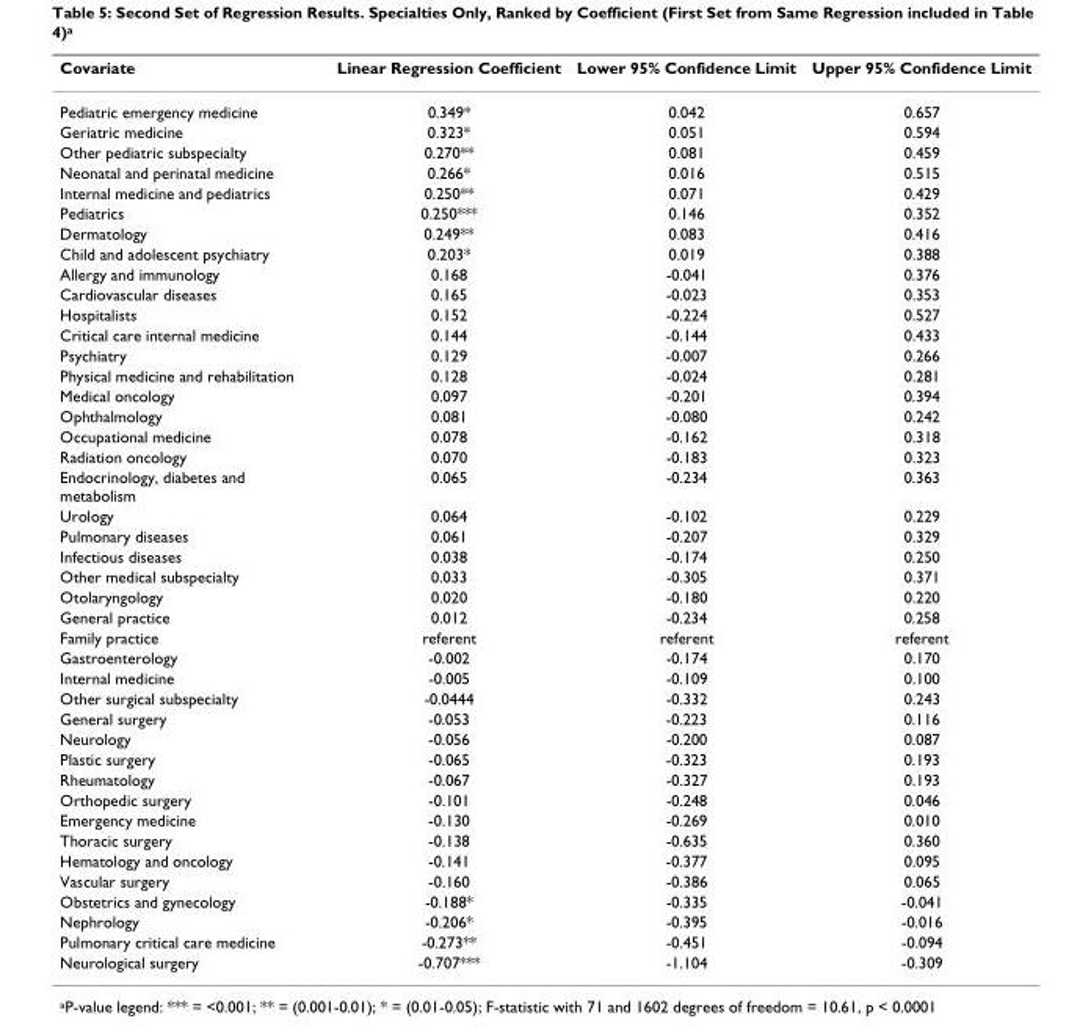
<table><thead><tr><td>Covariate</td><td>Linear Regression Coefficient</td><td>Lower 95% Confidence Limit</td><td>Upper 95% Confidence Limit</td></tr></thead><tbody><tr><td>Pediatric emergency medicine</td><td>0.349*</td><td>0.042</td><td>0.657</td></tr><tr><td>Geriatric medicine</td><td>0.323*</td><td>0.051</td><td>0.594</td></tr><tr><td>Other pediatric subspecialty</td><td>0.270**</td><td>0.081</td><td>0.459</td></tr><tr><td>Neonatal and perinatal medicine</td><td>0.266*</td><td>0.016</td><td>0.515</td></tr><tr><td>Internal medicine and pediatrics</td><td>0.250**</td><td>0.071</td><td>0.429</td></tr><tr><td>Pediatrics</td><td>0.250***</td><td>0.146</td><td>0.352</td></tr><tr><td>Dermatology</td><td>0.249**</td><td>0.083</td><td>0.416</td></tr><tr><td>Child and adolescent psychiatry</td><td>0.203*</td><td>0.019</td><td>0.388</td></tr><tr><td>Allergy and immunology</td><td>0.168</td><td>-0.041</td><td>0.376</td></tr><tr><td>Cardiovascular diseases</td><td>0.165</td><td>-0.023</td><td>0.353</td></tr><tr><td>Hospitalists</td><td>0.152</td><td>-0.224</td><td>0.527</td></tr><tr><td>Critical care internal medicine</td><td>0.144</td><td>-0.144</td><td>0.433</td></tr><tr><td>Psychiatry</td><td>0.129</td><td>-0.007</td><td>0.266</td></tr><tr><td>Physical medicine and rehabilitation</td><td>0.128</td><td>-0.024</td><td>0.281</td></tr><tr><td>Medical oncology</td><td>0.097</td><td>-0.201</td><td>0.394</td></tr><tr><td>Ophthalmology</td><td>0.081</td><td>-0.080</td><td>0.242</td></tr><tr><td>Occupational medicine</td><td>0.078</td><td>-0.162</td><td>0.318</td></tr><tr><td>Radiation oncology</td><td>0.070</td><td>-0.183</td><td>0.323</td></tr><tr><td>Endocrinology, diabetes and metabolism</td><td>0.065</td><td>-0.234</td><td>0.363</td></tr><tr><td>Urology</td><td>0.064</td><td>-0.102</td><td>0.229</td></tr><tr><td>Pulmonary diseases</td><td>0.061</td><td>-0.207</td><td>0.329</td></tr><tr><td>Infectious diseases</td><td>0.038</td><td>-0.174</td><td>0.250</td></tr><tr><td>Other medical subspecialty</td><td>0.033</td><td>-0.305</td><td>0.371</td></tr><tr><td>Otolaryngology</td><td>0.020</td><td>-0.180</td><td>0.220</td></tr><tr><td>General practice</td><td>0.012</td><td>-0.234</td><td>0.258</td></tr><tr><td>Family practice</td><td>referent</td><td>referent</td><td>referent</td></tr><tr><td>Gastroenterology</td><td>-0.002</td><td>-0.174</td><td>0.170</td></tr><tr><td>Internal medicine</td><td>-0.005</td><td>-0.109</td><td>0.100</td></tr><tr><td>Other surgical subspecialty</td><td>-0.0444</td><td>-0.332</td><td>0.243</td></tr><tr><td>General surgery</td><td>-0.053</td><td>-0.223</td><td>0.116</td></tr><tr><td>Neurology</td><td>-0.056</td><td>-0.200</td><td>0.087</td></tr><tr><td>Plastic surgery</td><td>-0.065</td><td>-0.323</td><td>0.193</td></tr><tr><td>Rheumatology</td><td>-0.067</td><td>-0.327</td><td>0.193</td></tr><tr><td>Orthopedic surgery</td><td>-0.101</td><td>-0.248</td><td>0.046</td></tr><tr><td>Emergency medicine</td><td>-0.130</td><td>-0.269</td><td>0.010</td></tr><tr><td>Thoracic surgery</td><td>-0.138</td><td>-0.635</td><td>0.360</td></tr><tr><td>Hematology and oncology</td><td>-0.141</td><td>-0.377</td><td>0.095</td></tr><tr><td>Vascular surgery</td><td>-0.160</td><td>-0.386</td><td>0.065</td></tr><tr><td>Obstetrics and gynecology</td><td>-0.188*</td><td>-0.335</td><td>-0.041</td></tr><tr><td>Nephrology</td><td>-0.206*</td><td>-0.395</td><td>-0.016</td></tr><tr><td>Pulmonary critical care medicine</td><td>-0.273**</td><td>-0.451</td><td>-0.094</td></tr><tr><td>Neurological surgery</td><td>-0.707***</td><td>-1.104</td><td>-0.309</td></tr></tbody></table>